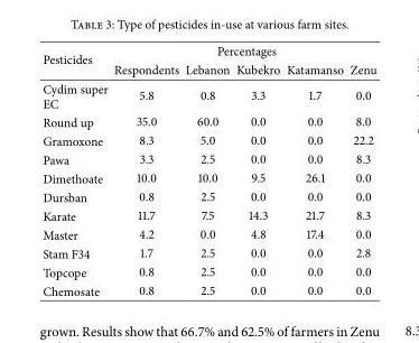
<table><thead><tr><td rowspan="2">Pesticides</td><td colspan="5">Percentages</td></tr><tr><td>Respondents</td><td>Lebanon</td><td>Kubekro</td><td>Katamanso</td><td>Zenu</td></tr></thead><tbody><tr><td>Cydim super EC</td><td>5.8</td><td>0.8</td><td>3.3</td><td>1.7</td><td>0.0</td></tr><tr><td>Round up</td><td>35.0</td><td>60.0</td><td>0.0</td><td>0.0</td><td>8.0</td></tr><tr><td>Gramoxone</td><td>8.3</td><td>5.0</td><td>0.0</td><td>0.0</td><td>22.2</td></tr><tr><td>Pawa</td><td>3.3</td><td>2.5</td><td>0.0</td><td>0.0</td><td>8.3</td></tr><tr><td>Dimethoate</td><td>10.0</td><td>10.0</td><td>9.5</td><td>26.1</td><td>0.0</td></tr><tr><td>Dursban</td><td>0.8</td><td>2.5</td><td>0.0</td><td>0.0</td><td>0.0</td></tr><tr><td>Karate</td><td>11.7</td><td>7.5</td><td>14.3</td><td>21.7</td><td>8.3</td></tr><tr><td>Master</td><td>4.2</td><td>0.0</td><td>4.8</td><td>17.4</td><td>0.0</td></tr><tr><td>Stam F34</td><td>1.7</td><td>2.5</td><td>0.0</td><td>0.0</td><td>2.8</td></tr><tr><td>Topcope</td><td>0.8</td><td>2.5</td><td>0.0</td><td>0.0</td><td>0.0</td></tr><tr><td>Chemosate</td><td>0.8</td><td>2.5</td><td>0.0</td><td>0.0</td><td>0.0</td></tr></tbody></table>